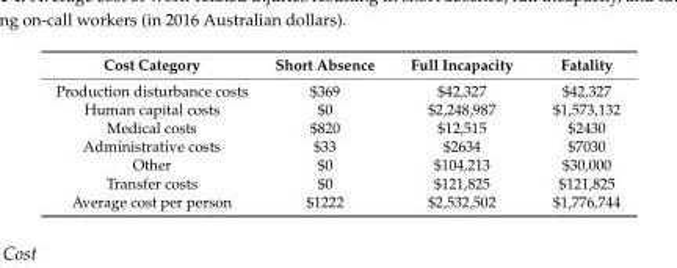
<table><thead><tr><td>Cost Category</td><td>Short Absence</td><td>Full Incapacity</td><td>Fatality</td></tr></thead><tbody><tr><td>Production disturbance costs</td><td>$369</td><td>$42,327</td><td>$42,327</td></tr><tr><td>Human capital costs</td><td>$0</td><td>$2,248,987</td><td>$1,573,132</td></tr><tr><td>Medical costs</td><td>$820</td><td>$12,515</td><td>$2430</td></tr><tr><td>Administrative costs</td><td>$33</td><td>$2634</td><td>$7030</td></tr><tr><td>Other</td><td>$0</td><td>$104,213</td><td>$30,000</td></tr><tr><td>Transfer costs</td><td>$0</td><td>$121,825</td><td>$121,825</td></tr><tr><td>Average cost per person</td><td>$1222</td><td>$2,532,502</td><td>$1,776,744</td></tr></tbody></table>